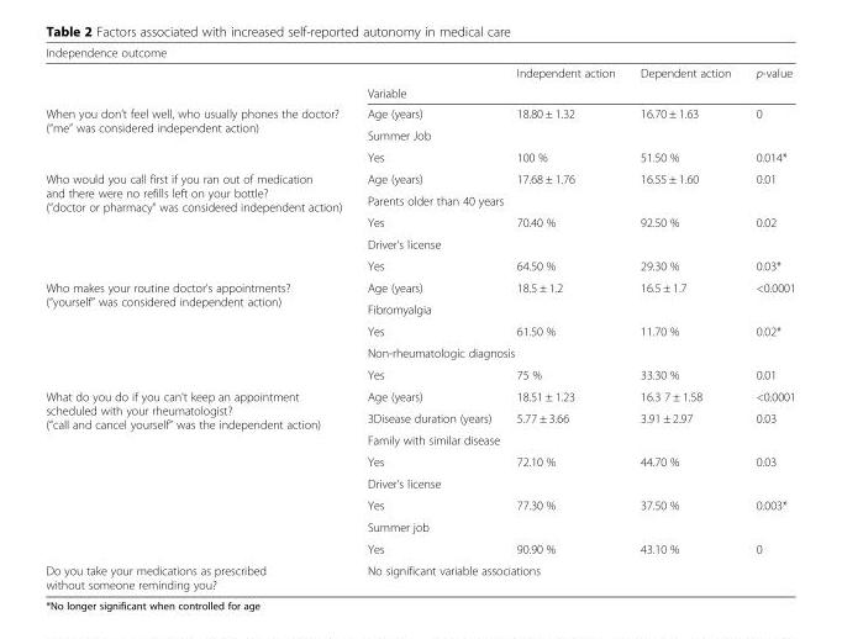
<table><thead><tr><td colspan="5">Independence outcome</td></tr><tr><td rowspan="2"></td><td rowspan="2">Variable</td><td rowspan="2">Independent action</td><td rowspan="2">Dependent action</td><td rowspan="2">p-value</td></tr><tr></tr></thead><tbody><tr><td rowspan="3">When you don’t feel well, who usually phones the doctor? (“me” was considered independent action)</td><td>Age (years)</td><td>18.80 ± 1.32</td><td>16.70 ± 1.63</td><td>0</td></tr><tr><td colspan="4">Summer Job</td></tr><tr><td>Yes</td><td>100 %</td><td>51.50 %</td><td>0.014*</td></tr><tr><td rowspan="5">Who would you call first if you ran out of medication and there were no refills left on your bottle? (“doctor or pharmacy” was considered independent action)</td><td>Age (years)</td><td>17.68 ± 1.76</td><td>16.55 ± 1.60</td><td>0.01</td></tr><tr><td colspan="4">Parents older than 40 years</td></tr><tr><td>Yes</td><td>70.40 %</td><td>92.50 %</td><td>0.02</td></tr><tr><td colspan="4">Driver’s license</td></tr><tr><td>Yes</td><td>64.50 %</td><td>29.30 %</td><td>0.03*</td></tr><tr><td rowspan="5">Who makes your routine doctor’s appointments? (“yourself” was considered independent action)</td><td>Age (years)</td><td>18.5 ± 1.2</td><td>16.5 ± 1.7</td><td>&lt;0.0001</td></tr><tr><td colspan="4">Fibromyalgia</td></tr><tr><td>Yes</td><td>61.50 %</td><td>11.70 %</td><td>0.02*</td></tr><tr><td colspan="4">Non-rheumatologic diagnosis</td></tr><tr><td>Yes</td><td>75 %</td><td>33.30 %</td><td>0.01</td></tr><tr><td rowspan="8">What do you do if you can’t keep an appointment scheduled with your rheumatologist? (“call and cancel yourself” was the independent action)</td><td>Age (years)</td><td>18.51 ± 1.23</td><td>16.3 7 ± 1.58</td><td>&lt;0.0001</td></tr><tr><td>3Disease duration (years)</td><td>5.77 ± 3.66</td><td>3.91 ± 2.97</td><td>0.03</td></tr><tr><td colspan="4">Family with similar disease</td></tr><tr><td>Yes</td><td>72.10 %</td><td>44.70 %</td><td>0.03</td></tr><tr><td colspan="4">Driver’s license</td></tr><tr><td>Yes</td><td>77.30 %</td><td>37.50 %</td><td>0.003*</td></tr><tr><td colspan="4">Summer job</td></tr><tr><td>Yes</td><td>90.90 %</td><td>43.10 %</td><td>0</td></tr><tr><td>Do you take your medications as prescribed without someone reminding you?</td><td colspan="4">No significant variable associations</td></tr></tbody></table>